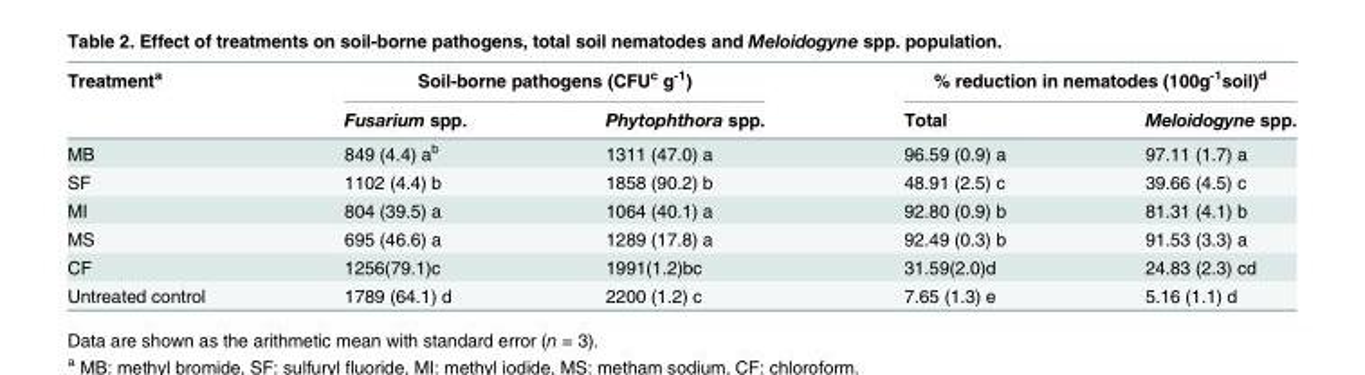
<table><thead><tr><td rowspan="2">Treatment<sup>a</sup></td><td colspan="2">Soil-borne pathogens (CFU<sup>c</sup> g<sup>-1</sup>)</td><td colspan="2">% reduction in nematodes (100g<sup>-1</sup>soil)<sup>d</sup></td></tr><tr><td>Fusarium spp.</td><td>Phytophthora spp.</td><td>Total</td><td>Meloidogyne spp.</td></tr></thead><tbody><tr><td>MB</td><td>849 (4.4) a<sup>b</sup></td><td>1311 (47.0) a</td><td>96.59 (0.9) a</td><td>97.11 (1.7) a</td></tr><tr><td>SF</td><td>1102 (4.4) b</td><td>1858 (90.2) b</td><td>48.91 (2.5) c</td><td>39.66 (4.5) c</td></tr><tr><td>MI</td><td>804 (39.5) a</td><td>1064 (40.1) a</td><td>92.80 (0.9) b</td><td>81.31 (4.1) b</td></tr><tr><td>MS</td><td>695 (46.6) a</td><td>1289 (17.8) a</td><td>92.49 (0.3) b</td><td>91.53 (3.3) a</td></tr><tr><td>CF</td><td>1256(79.1)c</td><td>1991(1.2)bc</td><td>31.59(2.0)d</td><td>24.83 (2.3) cd</td></tr><tr><td>Untreated control</td><td>1789 (64.1) d</td><td>2200 (1.2) c</td><td>7.65 (1.3) e</td><td>5.16 (1.1) d</td></tr></tbody></table>